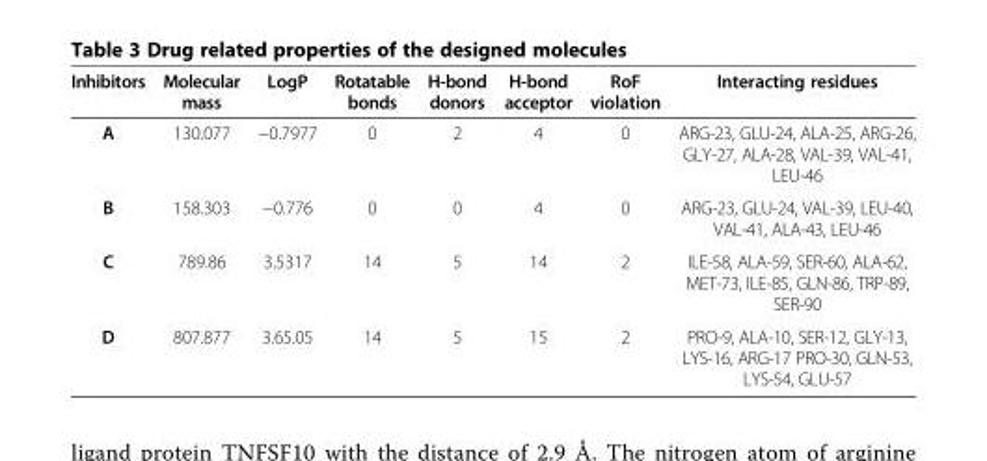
<table><thead><tr><td>Inhibitors</td><td>Molecular mass</td><td>LogP</td><td>Rotatable bonds</td><td>H-bond donors</td><td>H-bond acceptor</td><td>RoF violation</td><td>Interacting residues</td></tr></thead><tbody><tr><td>A</td><td>130.077</td><td>−0.7977</td><td>0</td><td>2</td><td>4</td><td>0</td><td>ARG-23, GLU-24, ALA-25, ARG-26, GLY-27, ALA-28, VAL-39, VAL-41, LEU-46</td></tr><tr><td>B</td><td>158.303</td><td>−0.776</td><td>0</td><td>0</td><td>4</td><td>0</td><td>ARG-23, GLU-24, VAL-39, LEU-40, VAL-41, ALA-43, LEU-46</td></tr><tr><td>C</td><td>789.86</td><td>3.5317</td><td>14</td><td>5</td><td>14</td><td>2</td><td>ILE-58, ALA-59, SER-60, ALA-62, MET-73, ILE-85, GLN-86, TRP-89, SER-90</td></tr><tr><td>D</td><td>807.877</td><td>3.65.05</td><td>14</td><td>5</td><td>15</td><td>2</td><td>PRO-9, ALA-10, SER-12, GLY-13, LYS-16, ARG-17 PRO-30, GLN-53, LYS-54, GLU-57</td></tr></tbody></table>